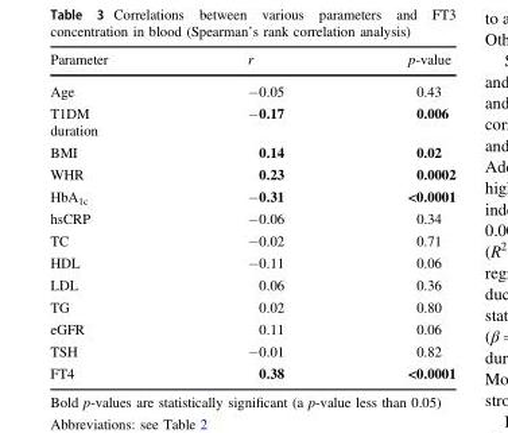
<table><thead><tr><td>Parameter</td><td>r</td><td>p-value</td></tr></thead><tbody><tr><td>Age</td><td>−0.05</td><td>0.43</td></tr><tr><td>T1DM duration</td><td>−0.17</td><td>0.006</td></tr><tr><td>BMI</td><td>0.14</td><td>0.02</td></tr><tr><td>WHR</td><td>0.23</td><td>0.0002</td></tr><tr><td>HbA<sub>1c</sub></td><td>−0.31</td><td>&lt;0.0001</td></tr><tr><td>hsCRP</td><td>−0.06</td><td>0.34</td></tr><tr><td>TC</td><td>−0.02</td><td>0.71</td></tr><tr><td>HDL</td><td>−0.11</td><td>0.06</td></tr><tr><td>LDL</td><td>0.06</td><td>0.36</td></tr><tr><td>TG</td><td>0.02</td><td>0.80</td></tr><tr><td>eGFR</td><td>0.11</td><td>0.06</td></tr><tr><td>TSH</td><td>−0.01</td><td>0.82</td></tr><tr><td>FT4</td><td>0.38</td><td>&lt;0.0001</td></tr></tbody></table>